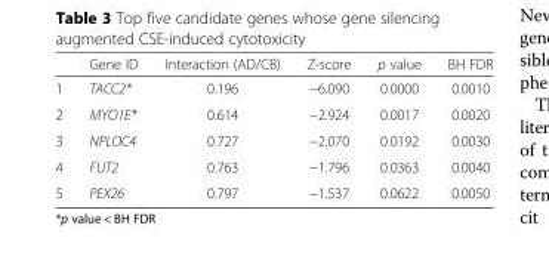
<table><thead><tr><td></td><td>Gene ID</td><td>Interaction (AD/CB)</td><td>Z-score</td><td>p value</td><td>BH FDR</td></tr></thead><tbody><tr><td>1</td><td>TACC2*</td><td>0.196</td><td>−6.090</td><td>0.0000</td><td>0.0010</td></tr><tr><td>2</td><td>MYO1E*</td><td>0.614</td><td>−2.924</td><td>0.0017</td><td>0.0020</td></tr><tr><td>3</td><td>NPLOC4</td><td>0.727</td><td>−2.070</td><td>0.0192</td><td>0.0030</td></tr><tr><td>4</td><td>FUT2</td><td>0.763</td><td>−1.796</td><td>0.0363</td><td>0.0040</td></tr><tr><td>5</td><td>PEX26</td><td>0.797</td><td>−1.537</td><td>0.0622</td><td>0.0050</td></tr></tbody></table>